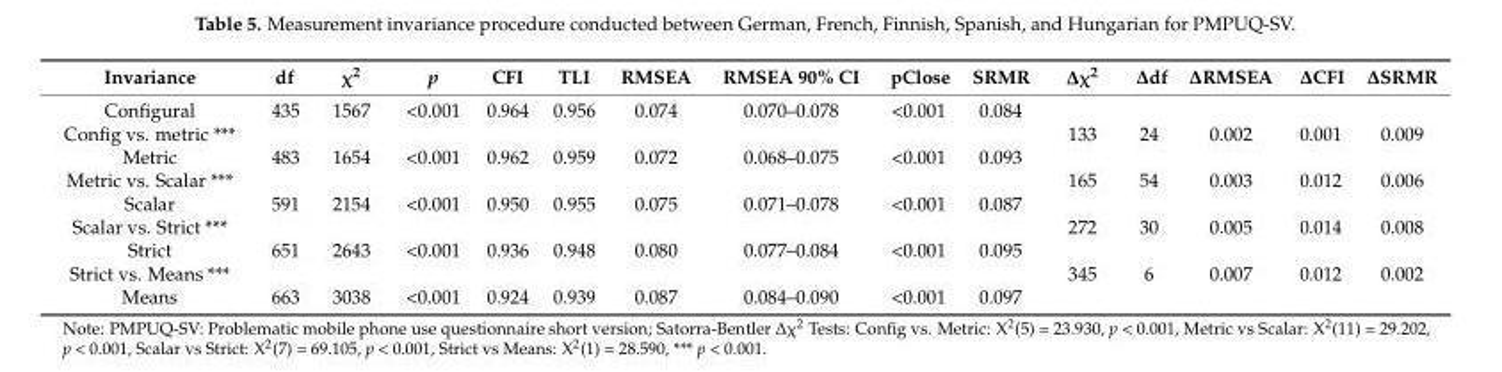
<table><thead><tr><td>Invariance</td><td>df</td><td>χ<sup>2</sup></td><td>p</td><td>CFI</td><td>TLI</td><td>RMSEA</td><td>RMSEA 90% CI</td><td>pClose</td><td>SRMR</td><td>∆χ2</td><td>∆df</td><td>∆RMSEA</td><td>∆CFI</td><td>∆SRMR</td></tr></thead><tbody><tr><td>Configural</td><td>435</td><td>1567</td><td>&lt;0.001</td><td>0.964</td><td>0.956</td><td>0.074</td><td>0.070–0.078</td><td>&lt;0.001</td><td>0.084</td><td></td><td></td><td></td><td></td><td></td></tr><tr><td>Config vs. metric ***</td><td></td><td></td><td></td><td></td><td></td><td></td><td></td><td></td><td></td><td>133</td><td>24</td><td>0.002</td><td>0.001</td><td>0.009</td></tr><tr><td>Metric</td><td>483</td><td>1654</td><td>&lt;0.001</td><td>0.962</td><td>0.959</td><td>0.072</td><td>0.068–0.075</td><td>&lt;0.001</td><td>0.093</td><td></td><td></td><td></td><td></td><td></td></tr><tr><td>Metric vs. Scalar ***</td><td></td><td></td><td></td><td></td><td></td><td></td><td></td><td></td><td></td><td>165</td><td>54</td><td>0.003</td><td>0.012</td><td>0.006</td></tr><tr><td>Scalar</td><td>591</td><td>2154</td><td>&lt;0.001</td><td>0.950</td><td>0.955</td><td>0.075</td><td>0.071–0.078</td><td>&lt;0.001</td><td>0.087</td><td></td><td></td><td></td><td></td><td></td></tr><tr><td>Scalar vs. Strict ***</td><td></td><td></td><td></td><td></td><td></td><td></td><td></td><td></td><td></td><td>272</td><td>30</td><td>0.005</td><td>0.014</td><td>0.008</td></tr><tr><td>Strict</td><td>651</td><td>2643</td><td>&lt;0.001</td><td>0.936</td><td>0.948</td><td>0.080</td><td>0.077–0.084</td><td>&lt;0.001</td><td>0.095</td><td></td><td></td><td></td><td></td><td></td></tr><tr><td>Strict vs. Means ***</td><td></td><td></td><td></td><td></td><td></td><td></td><td></td><td></td><td></td><td>345</td><td>6</td><td>0.007</td><td>0.012</td><td>0.002</td></tr><tr><td>Means</td><td>663</td><td>3038</td><td>&lt;0.001</td><td>0.924</td><td>0.939</td><td>0.087</td><td>0.084–0.090</td><td>&lt;0.001</td><td>0.097</td><td></td><td></td><td></td><td></td><td></td></tr></tbody></table>